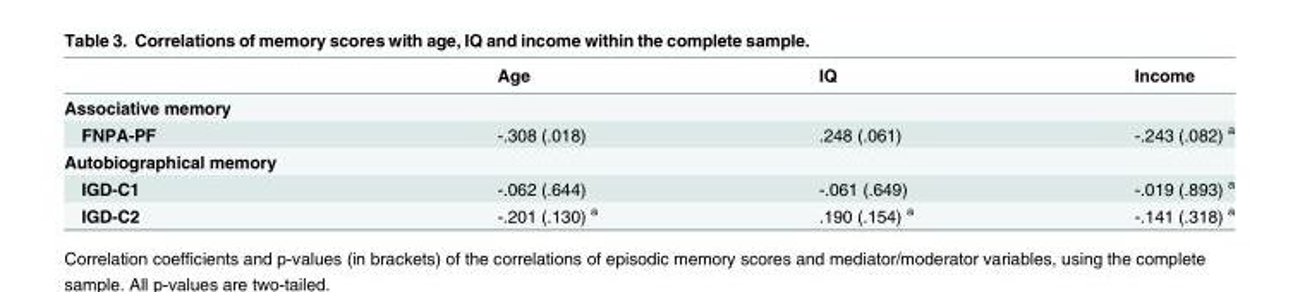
<table><thead><tr><td></td><td>Age</td><td>IQ</td><td>Income</td></tr></thead><tbody><tr><td colspan="4">Associative memory</td></tr><tr><td>FNPA-PF</td><td>-.308 (.018)</td><td>.248 (.061)</td><td>-.243 (.082) <sup>a</sup></td></tr><tr><td colspan="4">Autobiographical memory</td></tr><tr><td>IGD-C1</td><td>-.062 (.644)</td><td>-.061 (.649)</td><td>-.019 (.893) <sup>a</sup></td></tr><tr><td>IGD-C2</td><td>-.201 (.130) <sup>a</sup></td><td>.190 (.154) <sup>a</sup></td><td>-.141 (.318) <sup>a</sup></td></tr></tbody></table>